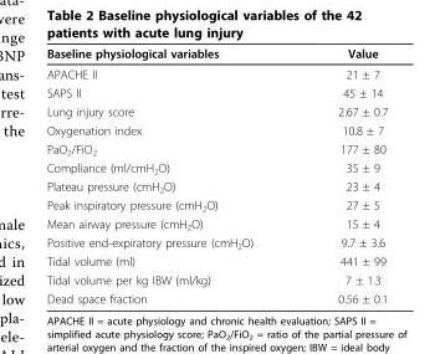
<table><thead><tr><td>Baseline physiological variables</td><td>Value</td></tr></thead><tbody><tr><td>APACHE II</td><td>21 ± 7</td></tr><tr><td>SAPS II</td><td>45 ± 14</td></tr><tr><td>Lung injury score</td><td>2.67 ± 0.7</td></tr><tr><td>Oxygenation index</td><td>10.8 ± 7</td></tr><tr><td>PaO<sub>2</sub>/FiO<sub>2</sub></td><td>177 ± 80</td></tr><tr><td>Compliance (ml/cmH<sub>2</sub>O)</td><td>35 ± 9</td></tr><tr><td>Plateau pressure (cmH<sub>2</sub>O)</td><td>23 ± 4</td></tr><tr><td>Peak inspiratory pressure (cmH<sub>2</sub>O)</td><td>27 ± 5</td></tr><tr><td>Mean airway pressure (cmH<sub>2</sub>O)</td><td>15 ± 4</td></tr><tr><td>Positive end-expiratory pressure (cmH<sub>2</sub>O)</td><td>9.7 ± 3.6</td></tr><tr><td>Tidal volume (ml)</td><td>441 ± 99</td></tr><tr><td>Tidal volume per kg IBW (ml/kg)</td><td>7 ± 1.3</td></tr><tr><td>Dead space fraction</td><td>0.56 ± 0.1</td></tr></tbody></table>